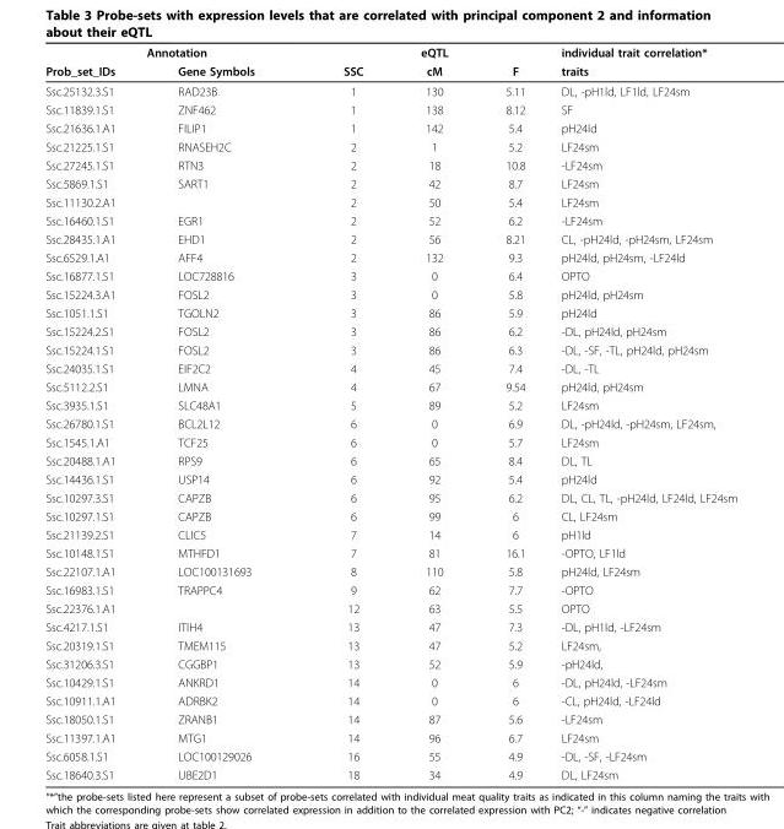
<table><thead><tr><td colspan="2">Annotation</td><td colspan="3">eQTL</td><td rowspan="2">individual trait correlation* traits</td></tr><tr><td>Prob_set_IDs</td><td>Gene Symbols</td><td>SSC</td><td>cM</td><td>F</td></tr></thead><tbody><tr><td>Ssc.25132.3.S1</td><td>RAD23B</td><td>1</td><td>130</td><td>5.11</td><td>DL, -pH1ld, LF1ld, LF24sm</td></tr><tr><td>Ssc.11839.1.S1</td><td>ZNF462</td><td>1</td><td>138</td><td>8.12</td><td>SF</td></tr><tr><td>Ssc.21636.1.A1</td><td>FILIP1</td><td>1</td><td>142</td><td>5.4</td><td>pH24ld</td></tr><tr><td>Ssc.21225.1.S1</td><td>RNASEH2C</td><td>2</td><td>1</td><td>5.2</td><td>LF24sm</td></tr><tr><td>Ssc.27245.1.S1</td><td>RTN3</td><td>2</td><td>18</td><td>10.8</td><td>-LF24sm</td></tr><tr><td>Ssc.5869.1.S1</td><td>SART1</td><td>2</td><td>42</td><td>8.7</td><td>LF24sm</td></tr><tr><td>Ssc.11130.2.A1</td><td></td><td>2</td><td>50</td><td>5.4</td><td>LF24sm</td></tr><tr><td>Ssc.16460.1.S1</td><td>EGR1</td><td>2</td><td>52</td><td>6.2</td><td>-LF24sm</td></tr><tr><td>Ssc.28435.1.A1</td><td>EHD1</td><td>2</td><td>56</td><td>8.21</td><td>CL, -pH24ld, -pH24sm, LF24sm</td></tr><tr><td>Ssc.6529.1.A1</td><td>AFF4</td><td>2</td><td>132</td><td>9.3</td><td>pH24ld, pH24sm, -LF24ld</td></tr><tr><td>Ssc.16877.1.S1</td><td>LOC728816</td><td>3</td><td>0</td><td>6.4</td><td>OPTO</td></tr><tr><td>Ssc.15224.3.A1</td><td>FOSL2</td><td>3</td><td>0</td><td>5.8</td><td>pH24ld, pH24sm</td></tr><tr><td>Ssc.1051.1.S1</td><td>TGOLN2</td><td>3</td><td>86</td><td>5.9</td><td>pH24ld</td></tr><tr><td>Ssc.15224.2.S1</td><td>FOSL2</td><td>3</td><td>86</td><td>6.2</td><td>-DL, pH24ld, pH24sm</td></tr><tr><td>Ssc.15224.1.S1</td><td>FOSL2</td><td>3</td><td>86</td><td>6.3</td><td>-DL, -SF, -TL, pH24ld, pH24sm</td></tr><tr><td>Ssc.24035.1.S1</td><td>EIF2C2</td><td>4</td><td>45</td><td>7.4</td><td>-DL, -TL</td></tr><tr><td>Ssc.5112.2.S1</td><td>LMNA</td><td>4</td><td>67</td><td>9.54</td><td>pH24ld, pH24sm</td></tr><tr><td>Ssc.3935.1.S1</td><td>SLC48A1</td><td>5</td><td>89</td><td>5.2</td><td>LF24sm</td></tr><tr><td>Ssc.26780.1.S1</td><td>BCL2L12</td><td>6</td><td>0</td><td>6.9</td><td>DL, -pH24ld, -pH24sm, LF24sm,</td></tr><tr><td>Ssc.1545.1.A1</td><td>TCF25</td><td>6</td><td>0</td><td>5.7</td><td>LF24sm</td></tr><tr><td>Ssc.20488.1.A1</td><td>RPS9</td><td>6</td><td>65</td><td>8.4</td><td>DL, TL</td></tr><tr><td>Ssc.14436.1.S1</td><td>USP14</td><td>6</td><td>92</td><td>5.4</td><td>pH24ld</td></tr><tr><td>Ssc.10297.3.S1</td><td>CAPZB</td><td>6</td><td>95</td><td>6.2</td><td>DL, CL, TL, -pH24ld, LF24ld, LF24sm</td></tr><tr><td>Ssc.10297.1.S1</td><td>CAPZB</td><td>6</td><td>99</td><td>6</td><td>CL, LF24sm</td></tr><tr><td>Ssc.21139.2.S1</td><td>CLIC5</td><td>7</td><td>14</td><td>6</td><td>pH1ld</td></tr><tr><td>Ssc.10148.1.S1</td><td>MTHFD1</td><td>7</td><td>81</td><td>16.1</td><td>-OPTO, LF1ld</td></tr><tr><td>Ssc.22107.1.A1</td><td>LOC100131693</td><td>8</td><td>110</td><td>5.8</td><td>pH24ld, LF24sm</td></tr><tr><td>Ssc.16983.1.S1</td><td>TRAPPC4</td><td>9</td><td>62</td><td>7.7</td><td>-OPTO</td></tr><tr><td>Ssc.22376.1.A1</td><td></td><td>12</td><td>63</td><td>5.5</td><td>OPTO</td></tr><tr><td>Ssc.4217.1.S1</td><td>ITIH4</td><td>13</td><td>47</td><td>7.3</td><td>-DL, pH1ld, -LF24sm</td></tr><tr><td>Ssc.20319.1.S1</td><td>TMEM115</td><td>13</td><td>47</td><td>5.2</td><td>LF24sm,</td></tr><tr><td>Ssc.31206.3.S1</td><td>CGGBP1</td><td>13</td><td>52</td><td>5.9</td><td>-pH24ld,</td></tr><tr><td>Ssc.10429.1.S1</td><td>ANKRD1</td><td>14</td><td>0</td><td>6</td><td>-DL, pH24ld, -LF24sm</td></tr><tr><td>Ssc.10911.1.A1</td><td>ADRBK2</td><td>14</td><td>0</td><td>6</td><td>-CL, pH24ld, -LF24ld</td></tr><tr><td>Ssc.18050.1.S1</td><td>ZRANB1</td><td>14</td><td>87</td><td>5.6</td><td>-LF24sm</td></tr><tr><td>Ssc.11397.1.A1</td><td>MTG1</td><td>14</td><td>96</td><td>6.7</td><td>LF24sm</td></tr><tr><td>Ssc.6058.1.S1</td><td>LOC100129026</td><td>16</td><td>55</td><td>4.9</td><td>-DL, -SF, -LF24sm</td></tr><tr><td>Ssc.18640.3.S1</td><td>UBE2D1</td><td>18</td><td>34</td><td>4.9</td><td>DL, LF24sm</td></tr></tbody></table>